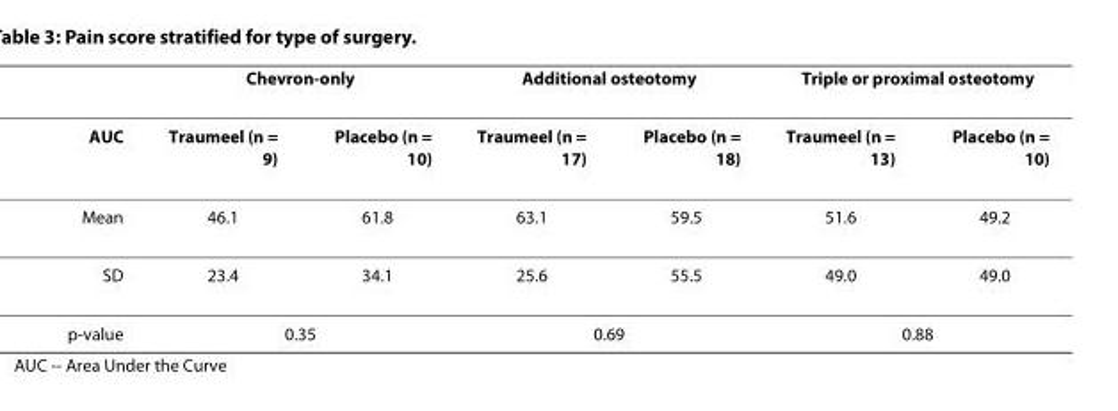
<table><thead><tr><td rowspan="2">AUC</td><td colspan="2">Chevron-only</td><td colspan="2">Additional osteotomy</td><td colspan="2">Triple or proximal osteotomy</td></tr><tr><td>Traumeel (n = 9)</td><td>Placebo (n = 10)</td><td>Traumeel (n = 17)</td><td>Placebo (n = 18)</td><td>Traumeel (n = 13)</td><td>Placebo (n = 10)</td></tr></thead><tbody><tr><td>Mean</td><td>46.1</td><td>61.8</td><td>63.1</td><td>59.5</td><td>51.6</td><td>49.2</td></tr><tr><td>SD</td><td>23.4</td><td>34.1</td><td>25.6</td><td>55.5</td><td>49.0</td><td>49.0</td></tr><tr><td>p-value</td><td colspan="2">0.35</td><td colspan="2">0.69</td><td colspan="2">0.88</td></tr></tbody></table>